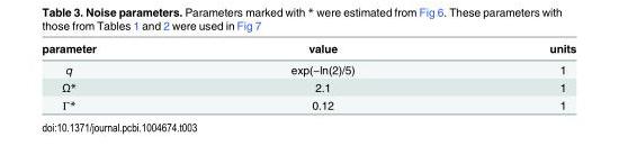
<table><thead><tr><td>parameter</td><td>value</td><td>units</td></tr></thead><tbody><tr><td>q</td><td>exp(−ln(2)/5)</td><td>1</td></tr><tr><td>Ω*</td><td>2.1</td><td>1</td></tr><tr><td>Γ*</td><td>0.12</td><td>1</td></tr></tbody></table>